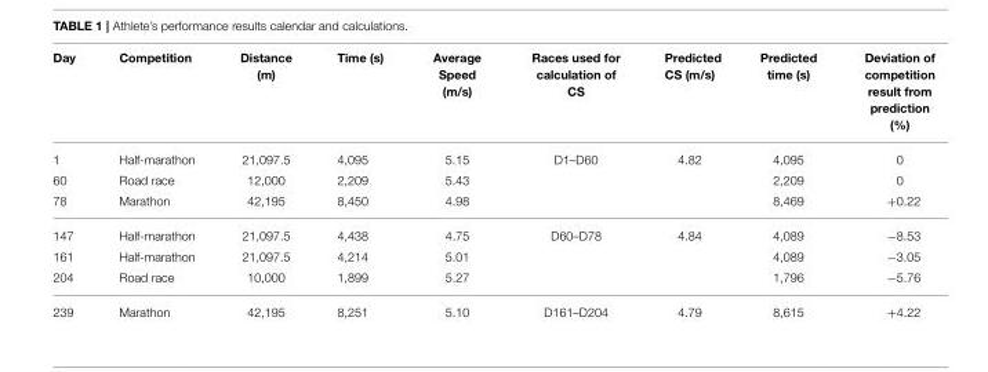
<table><thead><tr><td>Day</td><td>Competition</td><td>Distance (m)</td><td>Time (s)</td><td>Average Speed (m/s)</td><td>Races used for calculation of CS</td><td>Predicted CS (m/s)</td><td>Predicted time (s)</td><td>Deviation of competition result from prediction (%)</td></tr></thead><tbody><tr><td>1</td><td>Half-marathon</td><td>21,097.5</td><td>4,095</td><td>5.15</td><td>D1–D60</td><td>4.82</td><td>4,095</td><td>0</td></tr><tr><td>60</td><td>Road race</td><td>12,000</td><td>2,209</td><td>5.43</td><td></td><td></td><td>2,209</td><td>0</td></tr><tr><td>78</td><td>Marathon</td><td>42,195</td><td>8,450</td><td>4.98</td><td></td><td></td><td>8,469</td><td>+0.22</td></tr><tr><td>147</td><td>Half-marathon</td><td>21,097.5</td><td>4,438</td><td>4.75</td><td>D60–D78</td><td>4.84</td><td>4,089</td><td>−8.53</td></tr><tr><td>161</td><td>Half-marathon</td><td>21,097.5</td><td>4,214</td><td>5.01</td><td></td><td></td><td>4,089</td><td>−3.05</td></tr><tr><td>204</td><td>Road race</td><td>10,000</td><td>1,899</td><td>5.27</td><td></td><td></td><td>1,796</td><td>−5.76</td></tr><tr><td>239</td><td>Marathon</td><td>42,195</td><td>8,251</td><td>5.10</td><td>D161–D204</td><td>4.79</td><td>8,615</td><td>+4.22</td></tr></tbody></table>